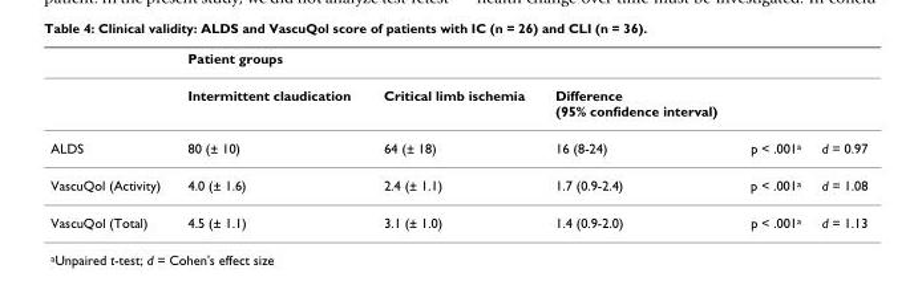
<table><thead><tr><td rowspan="2"></td><td colspan="2">Patient groups</td><td rowspan="2">Difference (95% confidence interval)</td><td rowspan="2"></td><td rowspan="2"></td></tr><tr><td>Intermittent claudication</td><td>Critical limb ischemia</td></tr></thead><tbody><tr><td>ALDS</td><td>80 (± 10)</td><td>64 (± 18)</td><td>16 (8-24)</td><td>p &lt; .001<sup>a</sup></td><td>d = 0.97</td></tr><tr><td>VascuQol (Activity)</td><td>4.0 (± 1.6)</td><td>2.4 (± 1.1)</td><td>1.7 (0.9-2.4)</td><td>p &lt; .001<sup>a</sup></td><td>d = 1.08</td></tr><tr><td>VascuQol (Total)</td><td>4.5 (± 1.1)</td><td>3.1 (± 1.0)</td><td>1.4 (0.9-2.0)</td><td>p &lt; .001<sup>a</sup></td><td>d = 1.13</td></tr></tbody></table>